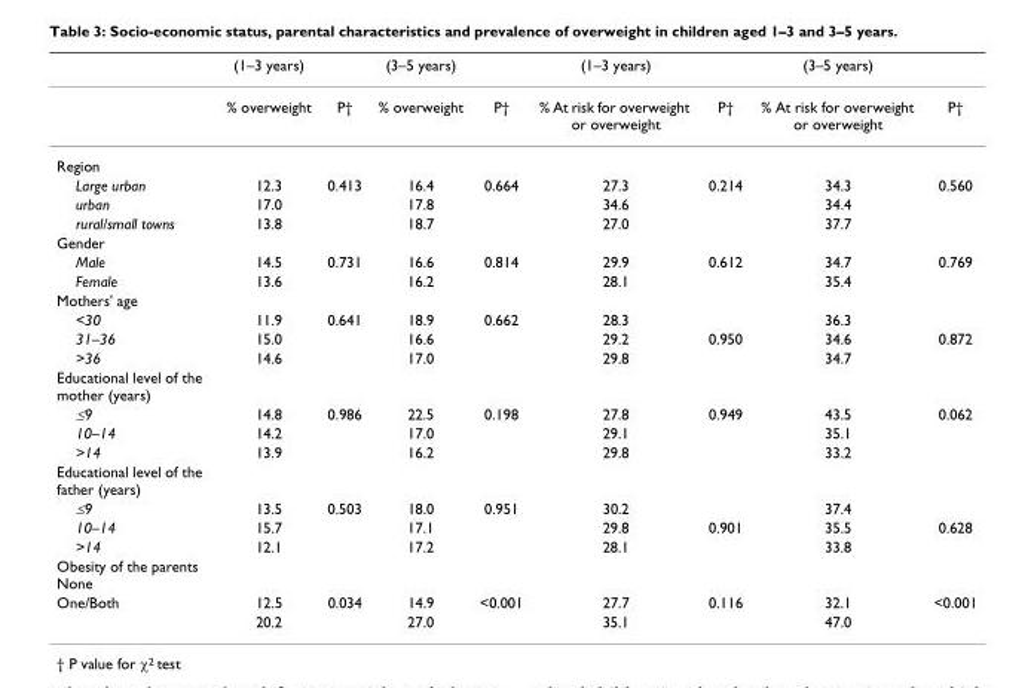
<table><thead><tr><td></td><td>(1–3 years)</td><td></td><td>(3–5 years)</td><td></td><td>(1–3 years)</td><td></td><td>(3–5 years)</td><td></td></tr></thead><tbody><tr><td></td><td>% overweight</td><td>P†</td><td>% overweight</td><td>P†</td><td>% At risk for overweight or overweight</td><td>P†</td><td>% At risk for overweight or overweight</td><td>P†</td></tr><tr><td colspan="9">Region</td></tr><tr><td>Large urban</td><td>12.3</td><td>0.413</td><td>16.4</td><td>0.664</td><td>27.3</td><td>0.214</td><td>34.3</td><td>0.560</td></tr><tr><td>urban</td><td>17.0</td><td></td><td>17.8</td><td></td><td>34.6</td><td></td><td>34.4</td><td></td></tr><tr><td>rural/small towns</td><td>13.8</td><td></td><td>18.7</td><td></td><td>27.0</td><td></td><td>37.7</td><td></td></tr><tr><td colspan="9">Gender</td></tr><tr><td>Male</td><td>14.5</td><td>0.731</td><td>16.6</td><td>0.814</td><td>29.9</td><td>0.612</td><td>34.7</td><td>0.769</td></tr><tr><td>Female</td><td>13.6</td><td></td><td>16.2</td><td></td><td>28.1</td><td></td><td>35.4</td><td></td></tr><tr><td colspan="9">Mothers&#x27; age</td></tr><tr><td>&lt;30</td><td>11.9</td><td>0.641</td><td>18.9</td><td>0.662</td><td>28.3</td><td></td><td>36.3</td><td></td></tr><tr><td>31–36</td><td>15.0</td><td></td><td>16.6</td><td></td><td>29.2</td><td>0.950</td><td>34.6</td><td>0.872</td></tr><tr><td>&gt;36</td><td>14.6</td><td></td><td>17.0</td><td></td><td>29.8</td><td></td><td>34.7</td><td></td></tr><tr><td colspan="9">Educational level of the mother (years)</td></tr><tr><td>≤9</td><td>14.8</td><td>0.986</td><td>22.5</td><td>0.198</td><td>27.8</td><td>0.949</td><td>43.5</td><td>0.062</td></tr><tr><td>10–14</td><td>14.2</td><td></td><td>17.0</td><td></td><td>29.1</td><td></td><td>35.1</td><td></td></tr><tr><td>&gt;14</td><td>13.9</td><td></td><td>16.2</td><td></td><td>29.8</td><td></td><td>33.2</td><td></td></tr><tr><td colspan="9">Educational level of the father (years)</td></tr><tr><td>≤9</td><td>13.5</td><td>0.503</td><td>18.0</td><td>0.951</td><td>30.2</td><td></td><td>37.4</td><td></td></tr><tr><td>10–14</td><td>15.7</td><td></td><td>17.1</td><td></td><td>29.8</td><td>0.901</td><td>35.5</td><td>0.628</td></tr><tr><td>&gt;14</td><td>12.1</td><td></td><td>17.2</td><td></td><td>28.1</td><td></td><td>33.8</td><td></td></tr><tr><td colspan="9">Obesity of the parents None</td></tr><tr><td rowspan="2">One/Both</td><td>12.5</td><td>0.034</td><td>14.9</td><td>&lt;0.001</td><td>27.7</td><td>0.116</td><td>32.1</td><td>&lt;0.001</td></tr><tr><td>20.2</td><td></td><td>27.0</td><td></td><td>35.1</td><td></td><td>47.0</td><td></td></tr></tbody></table>